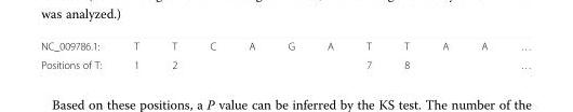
<table><tbody><tr><td>NC_009786.1:</td><td>T</td><td>T</td><td>C</td><td>A</td><td>G</td><td>A</td><td>T</td><td>T</td><td>A</td><td>A</td><td>…</td></tr><tr><td>Positions of T:</td><td>1</td><td>2</td><td></td><td></td><td></td><td></td><td>7</td><td>8</td><td></td><td></td><td>…</td></tr></tbody></table>